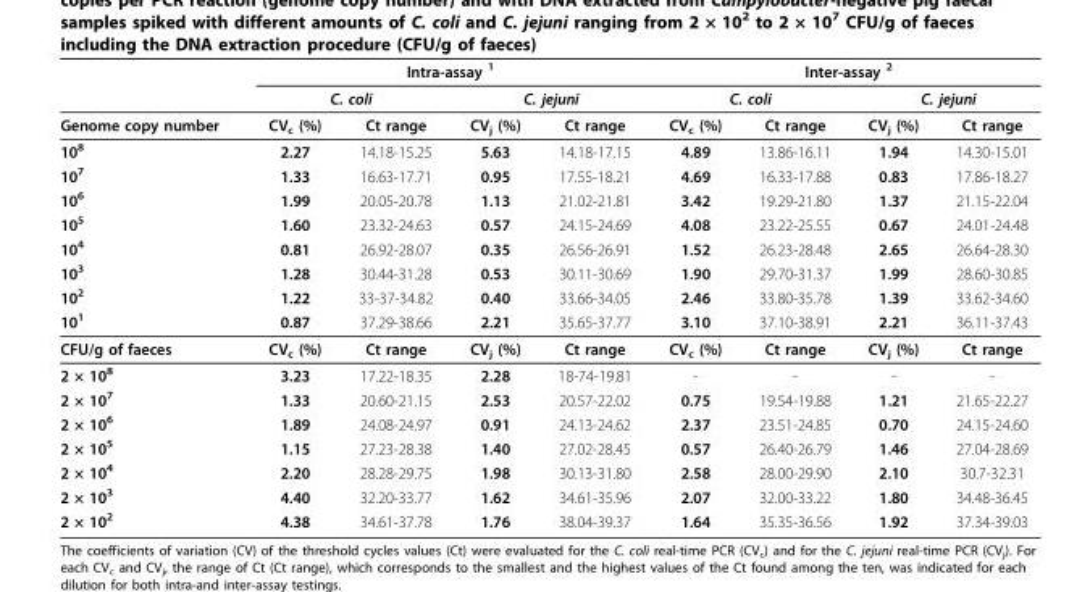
<table><thead><tr><td rowspan="3">Genome copy number</td><td colspan="4">Intra-assay <sup>1</sup></td><td colspan="4">Inter-assay <sup>2</sup></td></tr><tr><td colspan="2">C. coli</td><td colspan="2">C. jejuni</td><td colspan="2">C. coli</td><td colspan="2">C. jejuni</td></tr><tr><td>CV<sub>c</sub> (%)</td><td>Ct range</td><td>CV<sub>j</sub> (%)</td><td>Ct range</td><td>CV<sub>c</sub> (%)</td><td>Ct range</td><td>CV<sub>j</sub> (%)</td><td>Ct range</td></tr></thead><tbody><tr><td>10<sup>8</sup></td><td>2.27</td><td>14.18-15.25</td><td>5.63</td><td>14.18-17.15</td><td>4.89</td><td>13.86-16.11</td><td>1.94</td><td>14.30-15.01</td></tr><tr><td>10<sup>7</sup></td><td>1.33</td><td>16.63-17.71</td><td>0.95</td><td>17.55-18.21</td><td>4.69</td><td>16.33-17.88</td><td>0.83</td><td>17.86-18.27</td></tr><tr><td>10<sup>6</sup></td><td>1.99</td><td>20.05-20.78</td><td>1.13</td><td>21.02-21.81</td><td>3.42</td><td>19.29-21.80</td><td>1.37</td><td>21.15-22.04</td></tr><tr><td>10<sup>5</sup></td><td>1.60</td><td>23.32-24.63</td><td>0.57</td><td>24.15-24.69</td><td>4.08</td><td>23.22-25.55</td><td>0.67</td><td>24.01-24.48</td></tr><tr><td>10<sup>4</sup></td><td>0.81</td><td>26.92-28.07</td><td>0.35</td><td>26.56-26.91</td><td>1.52</td><td>26.23-28.48</td><td>2.65</td><td>26.64-28.30</td></tr><tr><td>10<sup>3</sup></td><td>1.28</td><td>30.44-31.28</td><td>0.53</td><td>30.11-30.69</td><td>1.90</td><td>29.70-31.37</td><td>1.99</td><td>28.60-30.85</td></tr><tr><td>10<sup>2</sup></td><td>1.22</td><td>33-37-34.82</td><td>0.40</td><td>33.66-34.05</td><td>2.46</td><td>33.80-35.78</td><td>1.39</td><td>33.62-34.60</td></tr><tr><td>10<sup>1</sup></td><td>0.87</td><td>37.29-38.66</td><td>2.21</td><td>35.65-37.77</td><td>3.10</td><td>37.10-38.91</td><td>2.21</td><td>36.11-37.43</td></tr><tr><td>CFU/g of faeces</td><td>CV<sub>c</sub> (%)</td><td>Ct range</td><td>CV<sub>j</sub> (%)</td><td>Ct range</td><td>CV<sub>c</sub> (%)</td><td>Ct range</td><td>CV<sub>j</sub> (%)</td><td>Ct range</td></tr><tr><td>2 × 10<sup>8</sup></td><td>3.23</td><td>17.22-18.35</td><td>2.28</td><td>18-74-19.81</td><td>-</td><td>-</td><td>-</td><td>-</td></tr><tr><td>2 × 10<sup>7</sup></td><td>1.33</td><td>20.60-21.15</td><td>2.53</td><td>20.57-22.02</td><td>0.75</td><td>19.54-19.88</td><td>1.21</td><td>21.65-22.27</td></tr><tr><td>2 × 10<sup>6</sup></td><td>1.89</td><td>24.08-24.97</td><td>0.91</td><td>24.13-24.62</td><td>2.37</td><td>23.51-24.85</td><td>0.70</td><td>24.15-24.60</td></tr><tr><td>2 × 10<sup>5</sup></td><td>1.15</td><td>27.23-28.38</td><td>1.40</td><td>27.02-28.45</td><td>0.57</td><td>26.40-26.79</td><td>1.46</td><td>27.04-28.69</td></tr><tr><td>2 × 10<sup>4</sup></td><td>2.20</td><td>28.28-29.75</td><td>1.98</td><td>30.13-31.80</td><td>2.58</td><td>28.00-29.90</td><td>2.10</td><td>30.7-32.31</td></tr><tr><td>2 × 10<sup>3</sup></td><td>4.40</td><td>32.20-33.77</td><td>1.62</td><td>34.61-35.96</td><td>2.07</td><td>32.00-33.22</td><td>1.80</td><td>34.48-36.45</td></tr><tr><td>2 × 10<sup>2</sup></td><td>4.38</td><td>34.61-37.78</td><td>1.76</td><td>38.04-39.37</td><td>1.64</td><td>35.35-36.56</td><td>1.92</td><td>37.34-39.03</td></tr></tbody></table>